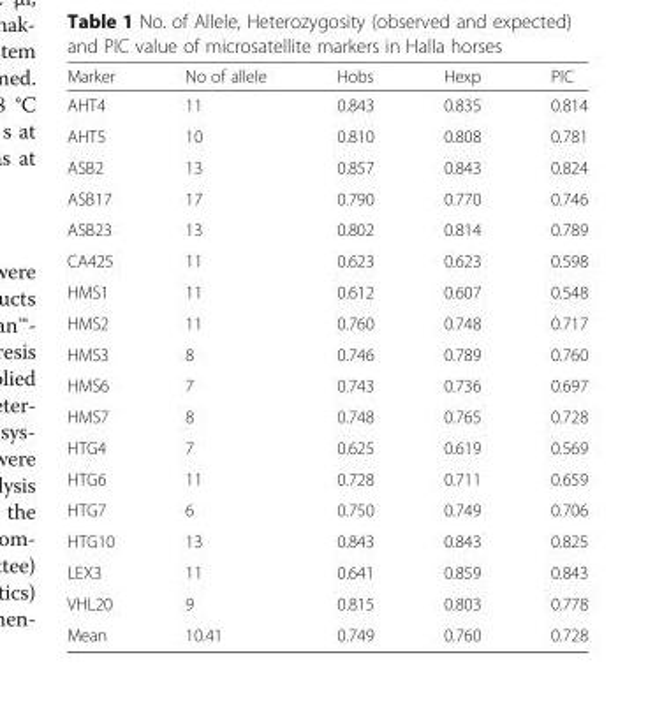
<table><thead><tr><td>Marker</td><td>No of allele</td><td>Hobs</td><td>Hexp</td><td>PIC</td></tr></thead><tbody><tr><td>AHT4</td><td>11</td><td>0.843</td><td>0.835</td><td>0.814</td></tr><tr><td>AHT5</td><td>10</td><td>0.810</td><td>0.808</td><td>0.781</td></tr><tr><td>ASB2</td><td>13</td><td>0.857</td><td>0.843</td><td>0.824</td></tr><tr><td>ASB17</td><td>17</td><td>0.790</td><td>0.770</td><td>0.746</td></tr><tr><td>ASB23</td><td>13</td><td>0.802</td><td>0.814</td><td>0.789</td></tr><tr><td>CA425</td><td>11</td><td>0.623</td><td>0.623</td><td>0.598</td></tr><tr><td>HMS1</td><td>11</td><td>0.612</td><td>0.607</td><td>0.548</td></tr><tr><td>HMS2</td><td>11</td><td>0.760</td><td>0.748</td><td>0.717</td></tr><tr><td>HMS3</td><td>8</td><td>0.746</td><td>0.789</td><td>0.760</td></tr><tr><td>HMS6</td><td>7</td><td>0.743</td><td>0.736</td><td>0.697</td></tr><tr><td>HMS7</td><td>8</td><td>0.748</td><td>0.765</td><td>0.728</td></tr><tr><td>HTG4</td><td>7</td><td>0.625</td><td>0.619</td><td>0.569</td></tr><tr><td>HTG6</td><td>11</td><td>0.728</td><td>0.711</td><td>0.659</td></tr><tr><td>HTG7</td><td>6</td><td>0.750</td><td>0.749</td><td>0.706</td></tr><tr><td>HTG10</td><td>13</td><td>0.843</td><td>0.843</td><td>0.825</td></tr><tr><td>LEX3</td><td>11</td><td>0.641</td><td>0.859</td><td>0.843</td></tr><tr><td>VHL20</td><td>9</td><td>0.815</td><td>0.803</td><td>0.778</td></tr><tr><td>Mean</td><td>10.41</td><td>0.749</td><td>0.760</td><td>0.728</td></tr></tbody></table>